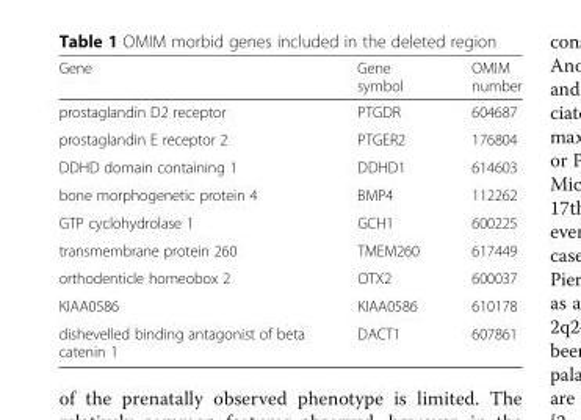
<table><thead><tr><td>Gene</td><td>Gene symbol</td><td>OMIM number</td></tr></thead><tbody><tr><td>prostaglandin D2 receptor</td><td>PTGDR</td><td>604687</td></tr><tr><td>prostaglandin E receptor 2</td><td>PTGER2</td><td>176804</td></tr><tr><td>DDHD domain containing 1</td><td>DDHD1</td><td>614603</td></tr><tr><td>bone morphogenetic protein 4</td><td>BMP4</td><td>112262</td></tr><tr><td>GTP cyclohydrolase 1</td><td>GCH1</td><td>600225</td></tr><tr><td>transmembrane protein 260</td><td>TMEM260</td><td>617449</td></tr><tr><td>orthodenticle homeobox 2</td><td>OTX2</td><td>600037</td></tr><tr><td>KIAA0586</td><td>KIAA0586</td><td>610178</td></tr><tr><td>dishevelled binding antagonist of beta catenin 1</td><td>DACT1</td><td>607861</td></tr></tbody></table>